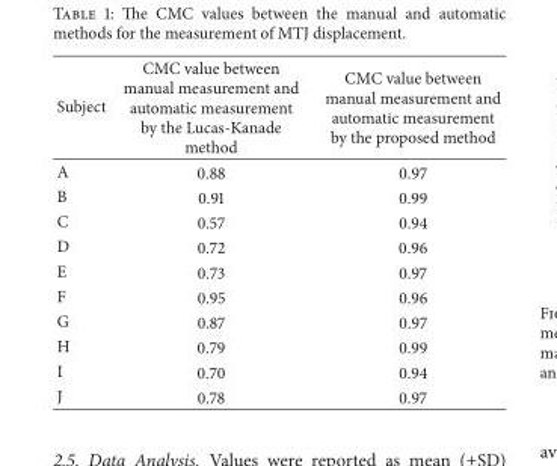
<table><thead><tr><td>Subject</td><td>CMC value between manual measurement and automatic measurement by the Lucas-Kanade method</td><td>CMC value between manual measurement and automatic measurement by the proposed method</td></tr></thead><tbody><tr><td>A</td><td>0.88</td><td>0.97</td></tr><tr><td>B</td><td>0.91</td><td>0.99</td></tr><tr><td>C</td><td>0.57</td><td>0.94</td></tr><tr><td>D</td><td>0.72</td><td>0.96</td></tr><tr><td>E</td><td>0.73</td><td>0.97</td></tr><tr><td>F</td><td>0.95</td><td>0.96</td></tr><tr><td>G</td><td>0.87</td><td>0.97</td></tr><tr><td>H</td><td>0.79</td><td>0.99</td></tr><tr><td>I</td><td>0.70</td><td>0.94</td></tr><tr><td>J</td><td>0.78</td><td>0.97</td></tr></tbody></table>